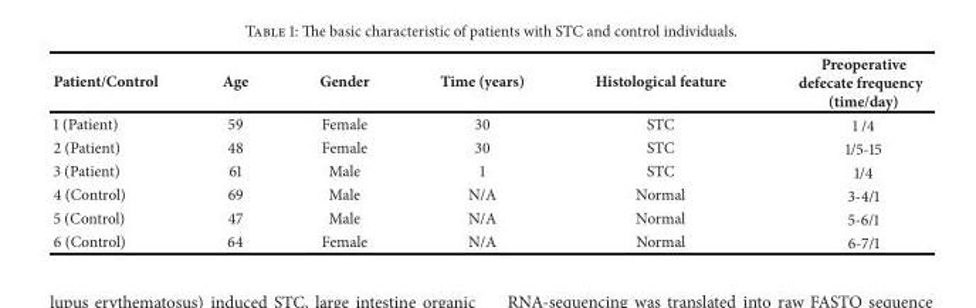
<table><thead><tr><td>Patient/Control</td><td>Age</td><td>Gender</td><td>Time (years)</td><td>Histological feature</td><td>Preoperative defecate frequency (time/day)</td></tr></thead><tbody><tr><td>1 (Patient)</td><td>59</td><td>Female</td><td>30</td><td>STC</td><td>1 /4</td></tr><tr><td>2 (Patient)</td><td>48</td><td>Female</td><td>30</td><td>STC</td><td>1/5-15</td></tr><tr><td>3 (Patient)</td><td>61</td><td>Male</td><td>1</td><td>STC</td><td>1/4</td></tr><tr><td>4 (Control)</td><td>69</td><td>Male</td><td>N/A</td><td>Normal</td><td>3-4/1</td></tr><tr><td>5 (Control)</td><td>47</td><td>Male</td><td>N/A</td><td>Normal</td><td>5-6/1</td></tr><tr><td>6 (Control)</td><td>64</td><td>Female</td><td>N/A</td><td>Normal</td><td>6-7/1</td></tr></tbody></table>